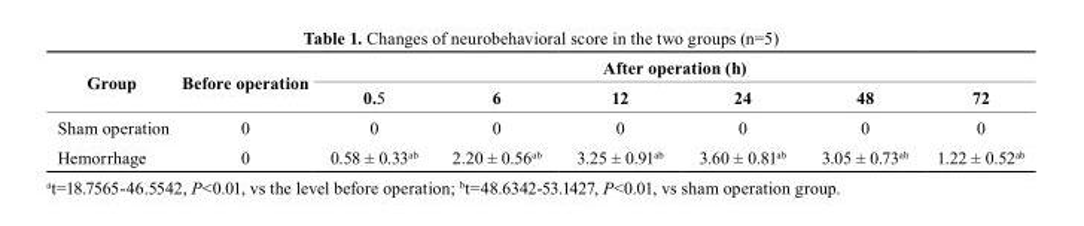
<table><thead><tr><td rowspan="2">Group</td><td rowspan="2">before operation</td><td colspan="6">After operation (h)</td></tr><tr><td>0.5</td><td>6</td><td>12</td><td>24</td><td>48</td><td>72</td></tr></thead><tbody><tr><td>Sham operation</td><td>0</td><td>0</td><td>0</td><td>0</td><td>0</td><td>0</td><td>0</td></tr><tr><td>Hemorrhage</td><td>0</td><td>0.58 ± 0.33<sup>ab</sup></td><td>2.20 ± 0.56<sup>ab</sup></td><td>3.25 ± 0.91<sup>ab</sup></td><td>3.60 ± 0.81<sup>ab</sup></td><td>3.05 ± 0.73<sup>ab</sup></td><td>1.22 ± 0.52<sup>ab</sup></td></tr></tbody></table>